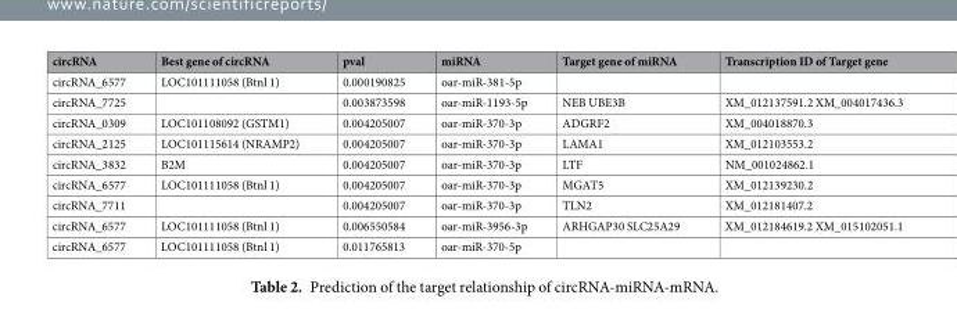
<table><thead><tr><td>circRNA</td><td>Best gene of circRNA</td><td>pval</td><td>miRNA</td><td>Target gene of miRNA</td><td>Transcription ID of Target gene</td></tr></thead><tbody><tr><td>circRNA_6577</td><td>LOC101111058 (Btnl 1)</td><td>0.000190825</td><td>oar-miR-381-5p</td><td></td><td></td></tr><tr><td>circRNA_7725</td><td></td><td>0.003873598</td><td>oar-miR-1193-5p</td><td>NEB UBE3B</td><td>XM_012137591.2 XM_004017436.3</td></tr><tr><td>circRNA_0309</td><td>LOC101108092 (GSTM1)</td><td>0.004205007</td><td>oar-miR-370-3p</td><td>ADGRF2</td><td>XM_004018870.3</td></tr><tr><td>circRNA_2125</td><td>LOC101115614 (NRAMP2)</td><td>0.004205007</td><td>oar-miR-370-3p</td><td>LAMA1</td><td>XM_012103553.2</td></tr><tr><td>circRNA_3832</td><td>B2M</td><td>0.004205007</td><td>oar-miR-370-3p</td><td>LTF</td><td>NM_001024862.1</td></tr><tr><td>circRNA_6577</td><td>LOC101111058 (Btnl 1)</td><td>0.004205007</td><td>oar-miR-370-3p</td><td>MGAT5</td><td>XM_012139230.2</td></tr><tr><td>circRNA_7711</td><td></td><td>0.004205007</td><td>oar-miR-370-3p</td><td>TLN2</td><td>XM_012181407.2</td></tr><tr><td>circRNA_6577</td><td>LOC101111058 (Btnl 1)</td><td>0.006550584</td><td>oar-miR-3956-3p</td><td>ARHGAP30 SLC25A29</td><td>XM_012184619.2 XM_015102051.1</td></tr><tr><td>circRNA_6577</td><td>LOC101111058 (Btnl 1)</td><td>0.011765813</td><td>oar-miR-370-5p</td><td></td><td></td></tr></tbody></table>